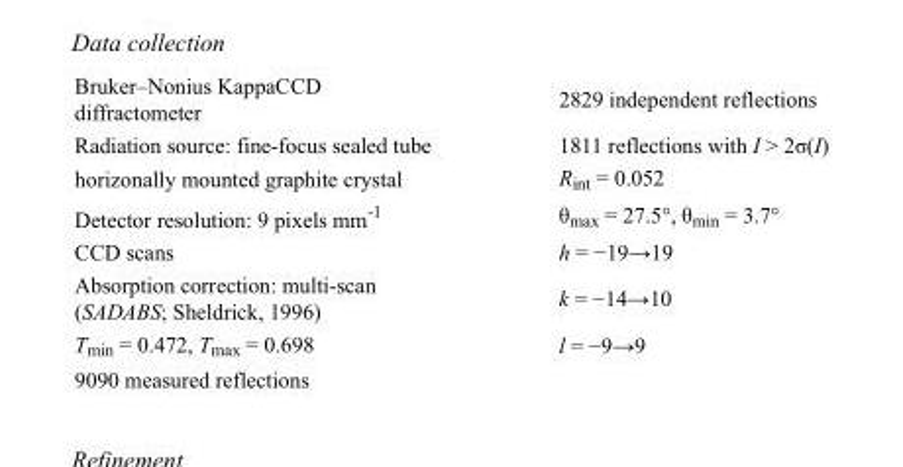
<table><tbody><tr><td>Bruker–Nonius KappaCCD diffractometer</td><td>2829 independent reflections</td></tr><tr><td>Radiation source: fine-focus sealed tube</td><td>1811 reflections with I &gt; 2σ(I)</td></tr><tr><td>horizonally mounted graphite crystal</td><td>R<sub>int</sub> = 0.052</td></tr><tr><td>Detector resolution: 9 pixels mm<sup>-1</sup></td><td>θ<sub>max</sub> = 27.5°, θ<sub>min</sub> = 3.7°</td></tr><tr><td>CCD scans</td><td>h = −19→19</td></tr><tr><td>Absorption correction: multi-scan (SADABS; Sheldrick, 1996)</td><td>k = −14→10</td></tr><tr><td>T<sub>min</sub> = 0.472, T<sub>max</sub> = 0.698</td><td>l = −9→9</td></tr><tr><td>9090 measured reflections</td><td></td></tr></tbody></table>